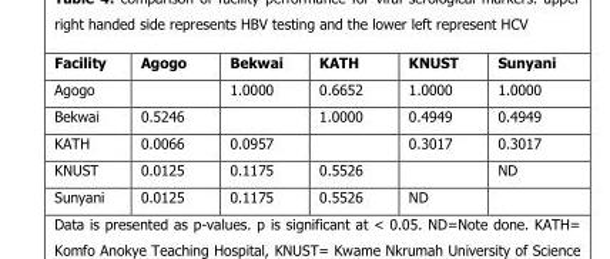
<table><thead><tr><td>Facility</td><td>Agogo</td><td>Bekwai</td><td>KATH</td><td>KNUST</td><td>Sunyani</td></tr></thead><tbody><tr><td>Agogo</td><td></td><td>1.0000</td><td>0.6652</td><td>1.0000</td><td>1.0000</td></tr><tr><td>Bekwai</td><td>0.5246</td><td></td><td>1.0000</td><td>0.4949</td><td>0.4949</td></tr><tr><td>KATH</td><td>0.0066</td><td>0.0957</td><td></td><td>0.3017</td><td>0.3017</td></tr><tr><td>KNUST</td><td>0.0125</td><td>0.1175</td><td>0.5526</td><td></td><td>ND</td></tr><tr><td>Sunyani</td><td>0.0125</td><td>0.1175</td><td>0.5526</td><td>ND</td><td></td></tr></tbody></table>